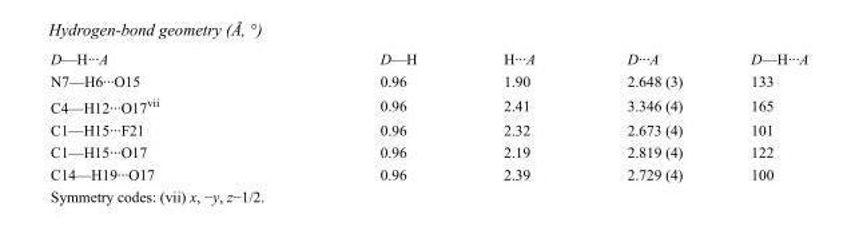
<table><tbody><tr><td>D—H···A</td><td>D—H</td><td>H···A</td><td>D···A</td><td>D—H···A</td></tr><tr><td>N7—H6···O15</td><td>0.96</td><td>1.90</td><td>2.648 (3)</td><td>133</td></tr><tr><td>C4—H12···O17<sup>vii</sup></td><td>0.96</td><td>2.41</td><td>3.346 (4)</td><td>165</td></tr><tr><td>C1—H15···F21</td><td>0.96</td><td>2.32</td><td>2.673 (4)</td><td>101</td></tr><tr><td>C1—H15···O17</td><td>0.96</td><td>2.19</td><td>2.819 (4)</td><td>122</td></tr><tr><td>C14—H19···O17</td><td>0.96</td><td>2.39</td><td>2.729 (4)</td><td>100</td></tr></tbody></table>